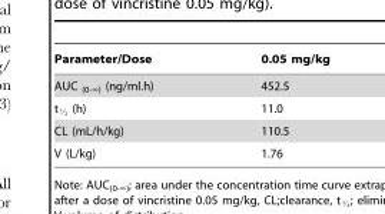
<table><thead><tr><td>Parameter/Dose</td><td>0.05 mg/kg</td></tr></thead><tbody><tr><td>AUC (0-‘) (ng/ml.h)</td><td>452.5</td></tr><tr><td>tK (h)</td><td>11.0</td></tr><tr><td>CL (mL/h/kg)</td><td>110.5</td></tr><tr><td>V (L/kg)</td><td>1.76</td></tr></tbody></table>